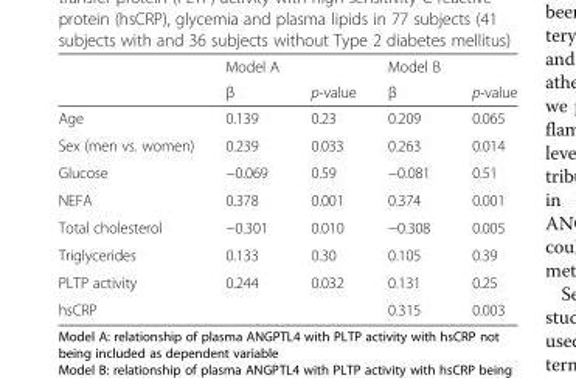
<table><thead><tr><td rowspan="2"></td><td rowspan="2">Model A β</td><td rowspan="2">p-value</td><td rowspan="2">Model B β</td><td rowspan="2">p-value</td></tr><tr></tr></thead><tbody><tr><td>Age</td><td>0.139</td><td>0.23</td><td>0.209</td><td>0.065</td></tr><tr><td>Sex (men vs. women)</td><td>0.239</td><td>0.033</td><td>0.263</td><td>0.014</td></tr><tr><td>Glucose</td><td>−0.069</td><td>0.59</td><td>−0.081</td><td>0.51</td></tr><tr><td>NEFA</td><td>0.378</td><td>0.001</td><td>0.374</td><td>0.001</td></tr><tr><td>Total cholesterol</td><td>−0.301</td><td>0.010</td><td>−0.308</td><td>0.005</td></tr><tr><td>Triglycerides</td><td>0.133</td><td>0.30</td><td>0.105</td><td>0.39</td></tr><tr><td>PLTP activity</td><td>0.244</td><td>0.032</td><td>0.131</td><td>0.25</td></tr><tr><td colspan="3">hsCRP</td><td>0.315</td><td>0.003</td></tr></tbody></table>